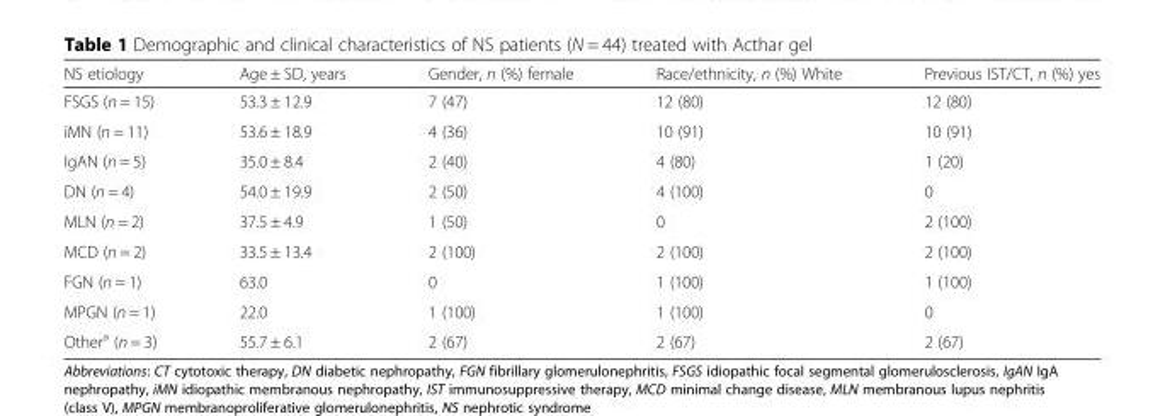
<table><thead><tr><td>NS etiology</td><td>Age ± SD, years</td><td>Gender, n (%) female</td><td>Race/ethnicity, n (%) White</td><td>Previous IST/CT, n (%) yes</td></tr></thead><tbody><tr><td>FSGS (n = 15)</td><td>53.3 ± 12.9</td><td>7 (47)</td><td>12 (80)</td><td>12 (80)</td></tr><tr><td>iMN (n = 11)</td><td>53.6 ± 18.9</td><td>4 (36)</td><td>10 (91)</td><td>10 (91)</td></tr><tr><td>IgAN (n = 5)</td><td>35.0 ± 8.4</td><td>2 (40)</td><td>4 (80)</td><td>1 (20)</td></tr><tr><td>DN (n = 4)</td><td>54.0 ± 19.9</td><td>2 (50)</td><td>4 (100)</td><td>0</td></tr><tr><td>MLN (n = 2)</td><td>37.5 ± 4.9</td><td>1 (50)</td><td>0</td><td>2 (100)</td></tr><tr><td>MCD (n = 2)</td><td>33.5 ± 13.4</td><td>2 (100)</td><td>2 (100)</td><td>2 (100)</td></tr><tr><td>FGN (n = 1)</td><td>63.0</td><td>0</td><td>1 (100)</td><td>1 (100)</td></tr><tr><td>MPGN (n = 1)</td><td>22.0</td><td>1 (100)</td><td>1 (100)</td><td>0</td></tr><tr><td>Other<sup>a</sup> (n = 3)</td><td>55.7 ± 6.1</td><td>2 (67)</td><td>2 (67)</td><td>2 (67)</td></tr></tbody></table>